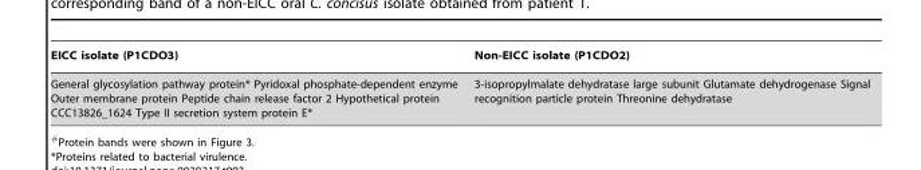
<table><thead><tr><td>EICC isolate (P1CDO3)</td><td>Non-EICC isolate (P1CDO2)</td></tr></thead><tbody><tr><td>General glycosylation pathway protein* Pyridoxal phosphate-dependent enzyme Outer membrane protein Peptide chain release factor 2 Hypothetical protein CCC13826_1624 Type II secretion system protein E*</td><td>3-isopropylmalate dehydratase large subunit Glutamate dehydrogenase Signal recognition particle protein Threonine dehydratase</td></tr></tbody></table>